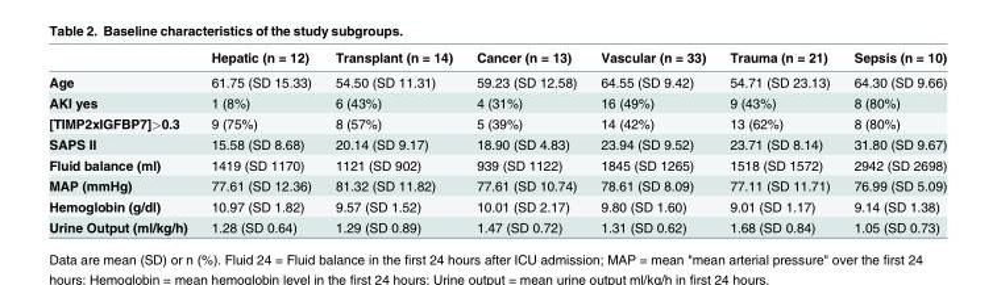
<table><thead><tr><td></td><td>Hepatic (n = 12)</td><td>Transplant (n = 14)</td><td>Cancer (n = 13)</td><td>Vascular (n = 33)</td><td>Trauma (n = 21)</td><td>Sepsis (n = 10)</td></tr></thead><tbody><tr><td>Age</td><td>61.75 (SD 15.33)</td><td>54.50 (SD 11.31)</td><td>59.23 (SD 12.58)</td><td>64.55 (SD 9.42)</td><td>54.71 (SD 23.13)</td><td>64.30 (SD 9.66)</td></tr><tr><td>AKI yes</td><td>1 (8%)</td><td>6 (43%)</td><td>4 (31%)</td><td>16 (49%)</td><td>9 (43%)</td><td>8 (80%)</td></tr><tr><td>[TIMP2xIGFBP7]&gt;0.3</td><td>9 (75%)</td><td>8 (57%)</td><td>5 (39%)</td><td>14 (42%)</td><td>13 (62%)</td><td>8 (80%)</td></tr><tr><td>SAPS II</td><td>15.58 (SD 8.68)</td><td>20.14 (SD 9.17)</td><td>18.90 (SD 4.83)</td><td>23.94 (SD 9.52)</td><td>23.71 (SD 8.14)</td><td>31.80 (SD 9.67)</td></tr><tr><td>Fluid balance (ml)</td><td>1419 (SD 1170)</td><td>1121 (SD 902)</td><td>939 (SD 1122)</td><td>1845 (SD 1265)</td><td>1518 (SD 1572)</td><td>2942 (SD 2698)</td></tr><tr><td>MAP (mmHg)</td><td>77.61 (SD 12.36)</td><td>81.32 (SD 11.82)</td><td>77.61 (SD 10.74)</td><td>78.61 (SD 8.09)</td><td>77.11 (SD 11.71)</td><td>76.99 (SD 5.09)</td></tr><tr><td>Hemoglobin (g/dl)</td><td>10.97 (SD 1.82)</td><td>9.57 (SD 1.52)</td><td>10.01 (SD 2.17)</td><td>9.80 (SD 1.60)</td><td>9.01 (SD 1.17)</td><td>9.14 (SD 1.38)</td></tr><tr><td>Urine Output (ml/kg/h)</td><td>1.28 (SD 0.64)</td><td>1.29 (SD 0.89)</td><td>1.47 (SD 0.72)</td><td>1.31 (SD 0.62)</td><td>1.68 (SD 0.84)</td><td>1.05 (SD 0.73)</td></tr></tbody></table>